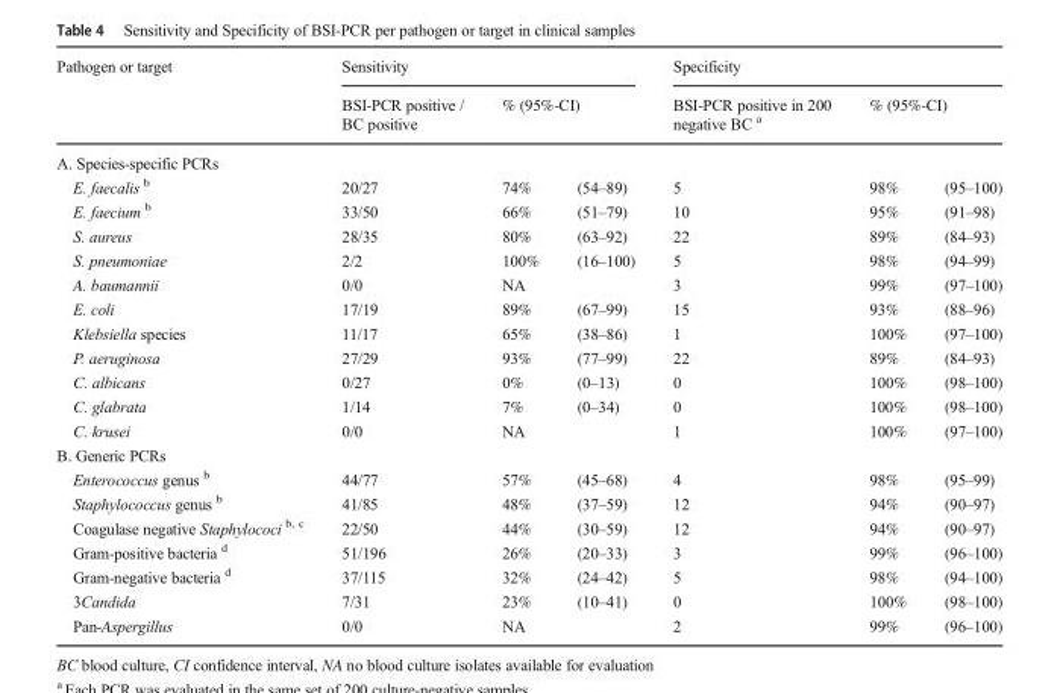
<table><thead><tr><td rowspan="2">Pathogen or target</td><td colspan="3">Sensitivity</td><td colspan="3">Specificity</td></tr><tr><td>BSI-PCR positive / BC positive</td><td colspan="2">% (95%-CI)</td><td>BSI-PCR positive in 200 negative BC <sup>a</sup></td><td colspan="2">% (95%-CI)</td></tr><tr><td colspan="7">A. Species-specific PCRs</td></tr><tr><td>E. faecalis <sup>b</sup></td><td>20/27</td><td>74%</td><td>(54–89)</td><td>5</td><td>98%</td><td>(95–100)</td></tr></thead><tbody><tr><td>E. faecium <sup>b</sup></td><td>33/50</td><td>66%</td><td>(51–79)</td><td>10</td><td>95%</td><td>(91–98)</td></tr><tr><td>S. aureus</td><td>28/35</td><td>80%</td><td>(63–92)</td><td>22</td><td>89%</td><td>(84–93)</td></tr><tr><td>S. pneumoniae</td><td>2/2</td><td>100%</td><td>(16–100)</td><td>5</td><td>98%</td><td>(94–99)</td></tr><tr><td>A. baumannii</td><td>0/0</td><td>NA</td><td></td><td>3</td><td>99%</td><td>(97–100)</td></tr><tr><td>E. coli</td><td>17/19</td><td>89%</td><td>(67–99)</td><td>15</td><td>93%</td><td>(88–96)</td></tr><tr><td>Klebsiella species</td><td>11/17</td><td>65%</td><td>(38–86)</td><td>1</td><td>100%</td><td>(97–100)</td></tr><tr><td>P. aeruginosa</td><td>27/29</td><td>93%</td><td>(77–99)</td><td>22</td><td>89%</td><td>(84–93)</td></tr><tr><td>C. albicans</td><td>0/27</td><td>0%</td><td>(0–13)</td><td>0</td><td>100%</td><td>(98–100)</td></tr><tr><td>C. glabrata</td><td>1/14</td><td>7%</td><td>(0–34)</td><td>0</td><td>100%</td><td>(98–100)</td></tr><tr><td>C. krusei</td><td>0/0</td><td>NA</td><td></td><td>1</td><td>100%</td><td>(97–100)</td></tr><tr><td colspan="7">B. Generic PCRs</td></tr><tr><td>Enterococcus genus <sup>b</sup></td><td>44/77</td><td>57%</td><td>(45–68)</td><td>4</td><td>98%</td><td>(95–99)</td></tr><tr><td>Staphylococcus genus <sup>b</sup></td><td>41/85</td><td>48%</td><td>(37–59)</td><td>12</td><td>94%</td><td>(90–97)</td></tr><tr><td>Coagulase negative Staphylococi <sup>b, c</sup></td><td>22/50</td><td>44%</td><td>(30–59)</td><td>12</td><td>94%</td><td>(90–97)</td></tr><tr><td>Gram-positive bacteria <sup>d</sup></td><td>51/196</td><td>26%</td><td>(20–33)</td><td>3</td><td>99%</td><td>(96–100)</td></tr><tr><td>Gram-negative bacteria <sup>d</sup></td><td>37/115</td><td>32%</td><td>(24–42)</td><td>5</td><td>98%</td><td>(94–100)</td></tr><tr><td>3Candida</td><td>7/31</td><td>23%</td><td>(10–41)</td><td>0</td><td>100%</td><td>(98–100)</td></tr><tr><td>Pan-Aspergillus</td><td>0/0</td><td>NA</td><td></td><td>2</td><td>99%</td><td>(96–100)</td></tr></tbody></table>